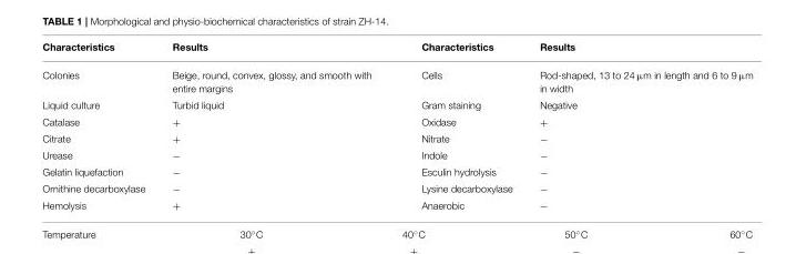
<table><thead><tr><td>Characteristics</td><td>Results</td><td>Characteristics</td><td>Results</td></tr></thead><tbody><tr><td>Colonies</td><td>Beige, round, convex, glossy, and smooth with entire margins</td><td>Cells</td><td>Rod-shaped, 13 to 24 µm in length and 6 to 9 µm in width</td></tr><tr><td>Liquid culture</td><td>Turbid liquid</td><td>Gram staining</td><td>Negative</td></tr><tr><td>Catalase</td><td>+</td><td>Oxidase</td><td>+</td></tr><tr><td>Citrate</td><td>+</td><td>Nitrate</td><td>−</td></tr><tr><td>Urease</td><td>−</td><td>Indole</td><td>−</td></tr><tr><td>Gelatin liquefaction</td><td>−</td><td>Esculin hydrolysis</td><td>−</td></tr><tr><td>Ornithine decarboxylase</td><td>−</td><td>Lysine decarboxylase</td><td>−</td></tr><tr><td>Hemolysis</td><td>+</td><td>Anaerobic</td><td>−</td></tr></tbody></table>